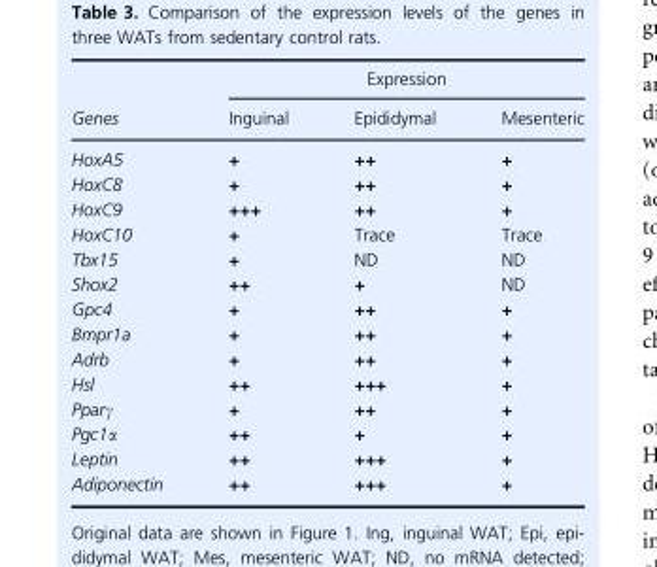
<table><thead><tr><td rowspan="2">Genes</td><td colspan="3">Expression</td></tr><tr><td>Inguinal</td><td>Epididymal</td><td>Mesenteric</td></tr></thead><tbody><tr><td>HoxA5</td><td>+</td><td>++</td><td>+</td></tr><tr><td>HoxC8</td><td>+</td><td>++</td><td>+</td></tr><tr><td>HoxC9</td><td>+++</td><td>++</td><td>+</td></tr><tr><td>HoxC10</td><td>+</td><td>Trace</td><td>Trace</td></tr><tr><td>Tbx15</td><td>+</td><td>ND</td><td>ND</td></tr><tr><td>Shox2</td><td>++</td><td>+</td><td>ND</td></tr><tr><td>Gpc4</td><td>+</td><td>++</td><td>+</td></tr><tr><td>Bmpr1a</td><td>+</td><td>++</td><td>+</td></tr><tr><td>Adrb</td><td>+</td><td>++</td><td>+</td></tr><tr><td>Hsl</td><td>++</td><td>+++</td><td>+</td></tr><tr><td>Pparγ</td><td>+</td><td>++</td><td>+</td></tr><tr><td>Pgc1α</td><td>++</td><td>+</td><td>+</td></tr><tr><td>Leptin</td><td>++</td><td>+++</td><td>+</td></tr><tr><td>Adiponectin</td><td>++</td><td>+++</td><td>+</td></tr></tbody></table>